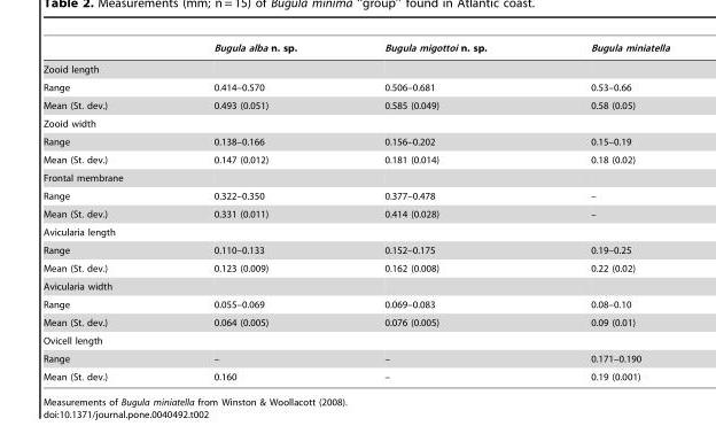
<table><thead><tr><td></td><td>Bugula alba n. sp.</td><td>Bugula migottoi n. sp.</td><td>Bugula miniatella</td></tr></thead><tbody><tr><td colspan="4">Zooid length</td></tr><tr><td>Range</td><td>0.414–0.570</td><td>0.506–0.681</td><td>0.53–0.66</td></tr><tr><td>Mean (St. dev.)</td><td>0.493 (0.051)</td><td>0.585 (0.049)</td><td>0.58 (0.05)</td></tr><tr><td colspan="4">Zooid width</td></tr><tr><td>Range</td><td>0.138–0.166</td><td>0.156–0.202</td><td>0.15–0.19</td></tr><tr><td>Mean (St. dev.)</td><td>0.147 (0.012)</td><td>0.181 (0.014)</td><td>0.18 (0.02)</td></tr><tr><td colspan="4">Frontal membrane</td></tr><tr><td>Range</td><td>0.322–0.350</td><td>0.377–0.478</td><td>–</td></tr><tr><td>Mean (St. dev.)</td><td>0.331 (0.011)</td><td>0.414 (0.028)</td><td>–</td></tr><tr><td colspan="4">Avicularia length</td></tr><tr><td>Range</td><td>0.110–0.133</td><td>0.152–0.175</td><td>0.19–0.25</td></tr><tr><td>Mean (St. dev.)</td><td>0.123 (0.009)</td><td>0.162 (0.008)</td><td>0.22 (0.02)</td></tr><tr><td colspan="4">Avicularia width</td></tr><tr><td>Range</td><td>0.055–0.069</td><td>0.069–0.083</td><td>0.08–0.10</td></tr><tr><td>Mean (St. dev.)</td><td>0.064 (0.005)</td><td>0.076 (0.005)</td><td>0.09 (0.01)</td></tr><tr><td colspan="4">Ovicell length</td></tr><tr><td>Range</td><td>–</td><td>–</td><td>0.171–0.190</td></tr><tr><td>Mean (St. dev.)</td><td>0.160</td><td>–</td><td>0.19 (0.001)</td></tr></tbody></table>